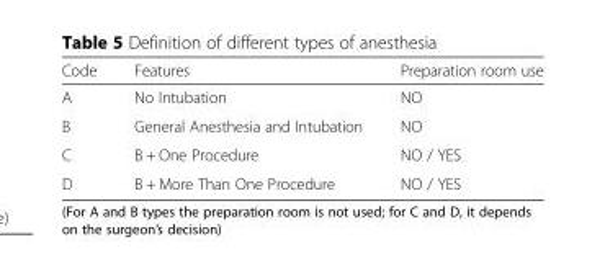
<table><thead><tr><td>Code</td><td>Features</td><td>Preparation room use</td></tr></thead><tbody><tr><td>A</td><td>No Intubation</td><td>NO</td></tr><tr><td>B</td><td>General Anesthesia and Intubation</td><td>NO</td></tr><tr><td>C</td><td>B + One Procedure</td><td>NO / YES</td></tr><tr><td>D</td><td>B + More Than One Procedure</td><td>NO / YES</td></tr></tbody></table>